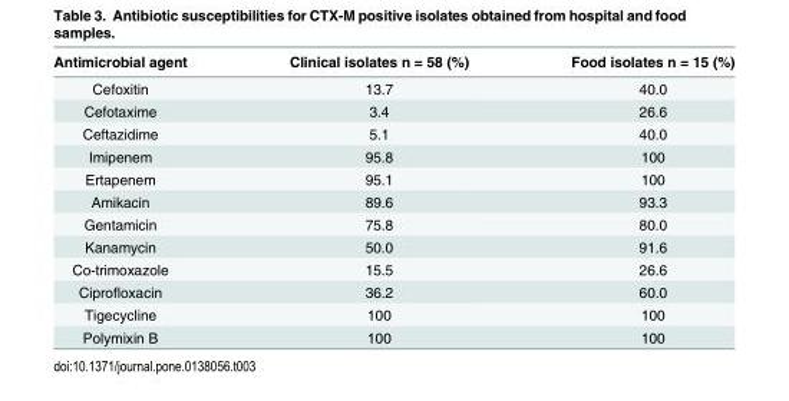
<table><thead><tr><td>Antimicrobial agent</td><td>Clinical isolates n = 58 (%)</td><td>Food isolates n = 15 (%)</td></tr></thead><tbody><tr><td>Cefoxitin</td><td>13.7</td><td>40.0</td></tr><tr><td>Cefotaxime</td><td>3.4</td><td>26.6</td></tr><tr><td>Ceftazidime</td><td>5.1</td><td>40.0</td></tr><tr><td>Imipenem</td><td>95.8</td><td>100</td></tr><tr><td>Ertapenem</td><td>95.1</td><td>100</td></tr><tr><td>Amikacin</td><td>89.6</td><td>93.3</td></tr><tr><td>Gentamicin</td><td>75.8</td><td>80.0</td></tr><tr><td>Kanamycin</td><td>50.0</td><td>91.6</td></tr><tr><td>Co-trimoxazole</td><td>15.5</td><td>26.6</td></tr><tr><td>Ciprofloxacin</td><td>36.2</td><td>60.0</td></tr><tr><td>Tigecycline</td><td>100</td><td>100</td></tr><tr><td>Polymixin B</td><td>100</td><td>100</td></tr></tbody></table>